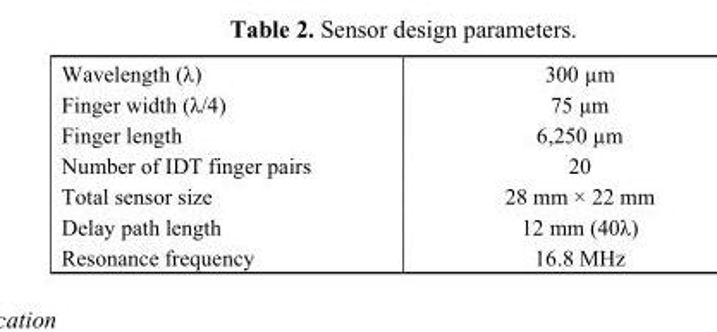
<table><tbody><tr><td>Wavelength (λ)</td><td>300 µm</td></tr><tr><td>Finger width (λ/4)</td><td>75 µm</td></tr><tr><td>Finger length</td><td>6,250 µm</td></tr><tr><td>Number of IDT finger pairs</td><td>20</td></tr><tr><td>Total sensor size</td><td>28 mm × 22 mm</td></tr><tr><td>Delay path length</td><td>12 mm (40λ)</td></tr><tr><td>Resonance frequency</td><td>16.8 MHz</td></tr></tbody></table>